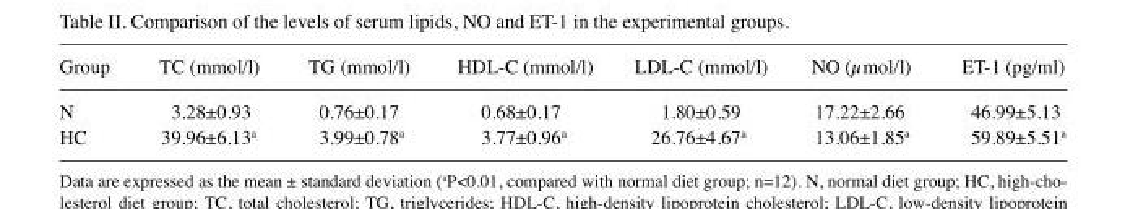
<table><thead><tr><td>Group</td><td>TC (mmol/l)</td><td>TG (mmol/l)</td><td>HDL-C (mmol/l)</td><td>LDL-C (mmol/l)</td><td>NO (µmol/l)</td><td>ET-1 (pg/ml)</td></tr></thead><tbody><tr><td>N</td><td>3.28±0.93</td><td>0.76±0.17</td><td>0.68±0.17</td><td>1.80±0.59</td><td>17.22±2.66</td><td>46.99±5.13</td></tr><tr><td>HC</td><td>39.96±6.13<sup>a</sup></td><td>3.99±0.78<sup>a</sup></td><td>3.77±0.96<sup>a</sup></td><td>26.76±4.67<sup>a</sup></td><td>13.06±1.85<sup>a</sup></td><td>59.89±5.51<sup>a</sup></td></tr></tbody></table>